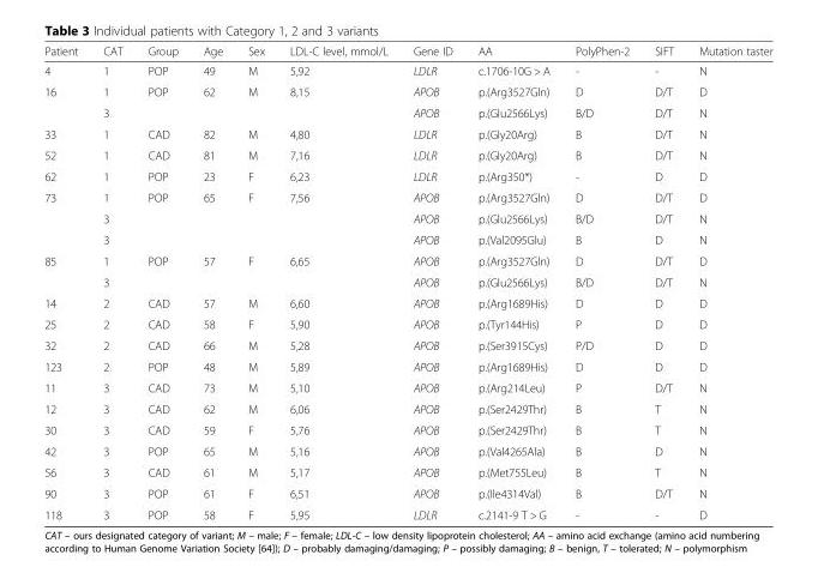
<table><thead><tr><td>Patient</td><td>CAT</td><td>Group</td><td>Age</td><td>Sex</td><td>LDL-C level, mmol/L</td><td>Gene ID</td><td>AA</td><td>PolyPhen-2</td><td>SIFT</td><td>Mutation taster</td></tr></thead><tbody><tr><td>4</td><td>1</td><td>POP</td><td>49</td><td>M</td><td>5,92</td><td>LDLR</td><td>c.1706-10G &gt; A</td><td>-</td><td>-</td><td>N</td></tr><tr><td rowspan="2">16</td><td>1</td><td>POP</td><td>62</td><td>M</td><td>8,15</td><td>APOB</td><td>p.(Arg3527Gln)</td><td>D</td><td>D/T</td><td>D</td></tr><tr><td>3</td><td></td><td></td><td></td><td></td><td>APOB</td><td>p.(Glu2566Lys)</td><td>B/D</td><td>D/T</td><td>N</td></tr><tr><td>33</td><td>1</td><td>CAD</td><td>82</td><td>M</td><td>4,80</td><td>LDLR</td><td>p.(Gly20Arg)</td><td>B</td><td>D/T</td><td>N</td></tr><tr><td>52</td><td>1</td><td>CAD</td><td>81</td><td>M</td><td>7,16</td><td>LDLR</td><td>p.(Gly20Arg)</td><td>B</td><td>D/T</td><td>N</td></tr><tr><td>62</td><td>1</td><td>POP</td><td>23</td><td>F</td><td>6,23</td><td>LDLR</td><td>p.(Arg350*)</td><td>-</td><td>D</td><td>D</td></tr><tr><td rowspan="3">73</td><td>1</td><td>POP</td><td>65</td><td>F</td><td>7,56</td><td>APOB</td><td>p.(Arg3527Gln)</td><td>D</td><td>D/T</td><td>D</td></tr><tr><td>3</td><td></td><td></td><td></td><td></td><td>APOB</td><td>p.(Glu2566Lys)</td><td>B/D</td><td>D/T</td><td>N</td></tr><tr><td>3</td><td></td><td></td><td></td><td></td><td>APOB</td><td>p.(Val2095Glu)</td><td>B</td><td>D</td><td>N</td></tr><tr><td rowspan="2">85</td><td>1</td><td>POP</td><td>57</td><td>F</td><td>6,65</td><td>APOB</td><td>p.(Arg3527Gln)</td><td>D</td><td>D/T</td><td>D</td></tr><tr><td>3</td><td></td><td></td><td></td><td></td><td>APOB</td><td>p.(Glu2566Lys)</td><td>B/D</td><td>D/T</td><td>N</td></tr><tr><td>14</td><td>2</td><td>CAD</td><td>57</td><td>M</td><td>6,60</td><td>APOB</td><td>p.(Arg1689His)</td><td>D</td><td>D</td><td>D</td></tr><tr><td>25</td><td>2</td><td>CAD</td><td>58</td><td>F</td><td>5,90</td><td>APOB</td><td>p.(Tyr144His)</td><td>P</td><td>D</td><td>D</td></tr><tr><td>32</td><td>2</td><td>CAD</td><td>66</td><td>M</td><td>5,28</td><td>APOB</td><td>p.(Ser3915Cys)</td><td>P/D</td><td>D</td><td>D</td></tr><tr><td>123</td><td>2</td><td>POP</td><td>48</td><td>M</td><td>5,89</td><td>APOB</td><td>p.(Arg1689His)</td><td>D</td><td>D</td><td>D</td></tr><tr><td>11</td><td>3</td><td>CAD</td><td>73</td><td>M</td><td>5,10</td><td>APOB</td><td>p.(Arg214Leu)</td><td>P</td><td>D/T</td><td>N</td></tr><tr><td>12</td><td>3</td><td>CAD</td><td>62</td><td>M</td><td>6,06</td><td>APOB</td><td>p.(Ser2429Thr)</td><td>B</td><td>T</td><td>N</td></tr><tr><td>30</td><td>3</td><td>CAD</td><td>59</td><td>F</td><td>5,76</td><td>APOB</td><td>p.(Ser2429Thr)</td><td>B</td><td>T</td><td>N</td></tr><tr><td>42</td><td>3</td><td>POP</td><td>65</td><td>M</td><td>5,16</td><td>APOB</td><td>p.(Val4265Ala)</td><td>B</td><td>D</td><td>N</td></tr><tr><td>56</td><td>3</td><td>CAD</td><td>61</td><td>M</td><td>5,17</td><td>APOB</td><td>p.(Met755Leu)</td><td>B</td><td>T</td><td>N</td></tr><tr><td>90</td><td>3</td><td>POP</td><td>61</td><td>F</td><td>6,51</td><td>APOB</td><td>p.(Ile4314Val)</td><td>B</td><td>D/T</td><td>N</td></tr><tr><td>118</td><td>3</td><td>POP</td><td>58</td><td>F</td><td>5,95</td><td>LDLR</td><td>c.2141-9 T &gt; G</td><td>-</td><td>-</td><td>D</td></tr></tbody></table>